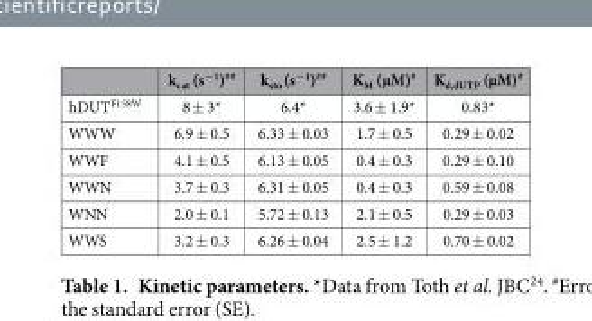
<table><thead><tr><td></td><td>k<sub>cat</sub> (s<sup>−1</sup>)<sup>##</sup></td><td>k<sub>sto</sub> (s<sup>−1</sup>)<sup>##</sup></td><td>K<sub>M</sub> (μM)<sup>#</sup></td><td>K<sub>d,dUTP</sub> (μM)<sup>#</sup></td></tr></thead><tbody><tr><td>hDUT<sup>F158W</sup></td><td>8 ± 3*</td><td>6.4*</td><td>3.6 ± 1.9*</td><td>0.83*</td></tr><tr><td>WWW</td><td>6.9 ± 0.5</td><td>6.33 ± 0.03</td><td>1.7 ± 0.5</td><td>0.29 ± 0.02</td></tr><tr><td>WWF</td><td>4.1 ± 0.5</td><td>6.13 ± 0.05</td><td>0.4 ± 0.3</td><td>0.29 ± 0.10</td></tr><tr><td>WWN</td><td>3.7 ± 0.3</td><td>6.31 ± 0.05</td><td>0.4 ± 0.3</td><td>0.59 ± 0.08</td></tr><tr><td>WNN</td><td>2.0 ± 0.1</td><td>5.72 ± 0.13</td><td>2.1 ± 0.5</td><td>0.29 ± 0.03</td></tr><tr><td>WWS</td><td>3.2 ± 0.3</td><td>6.26 ± 0.04</td><td>2.5 ± 1.2</td><td>0.70 ± 0.02</td></tr></tbody></table>